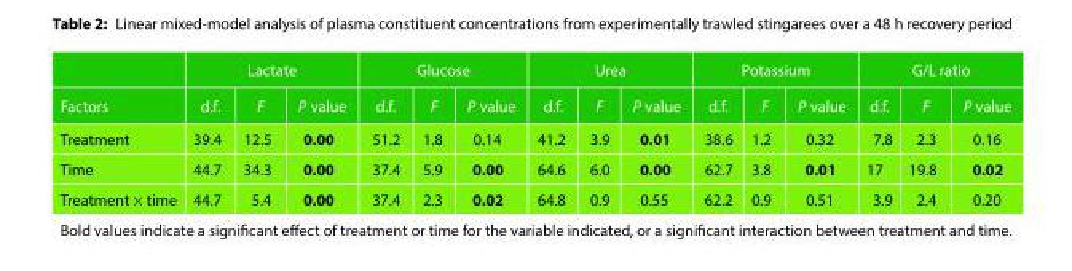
<table><thead><tr><td rowspan="2">Factors</td><td colspan="3">Lactate</td><td colspan="3">Glucose</td><td colspan="3">Urea</td><td colspan="3">Potassium</td><td colspan="3">G/L ratio</td></tr><tr><td>d.f.</td><td>F</td><td>P value</td><td>d.f.</td><td>F</td><td>P value</td><td>d.f.</td><td>F</td><td>P value</td><td>d.f.</td><td>F</td><td>P value</td><td>d.f.</td><td>F</td><td>P value</td></tr></thead><tbody><tr><td>Treatment</td><td>39.4</td><td>12.5</td><td>0.00</td><td>51.2</td><td>1.8</td><td>0.14</td><td>41.2</td><td>3.9</td><td>0.01</td><td>38.6</td><td>1.2</td><td>0.32</td><td>7.8</td><td>2.3</td><td>0.16</td></tr><tr><td>Time</td><td>44.7</td><td>34.3</td><td>0.00</td><td>37.4</td><td>5.9</td><td>0.00</td><td>64.6</td><td>6.0</td><td>0.00</td><td>62.7</td><td>3.8</td><td>0.01</td><td>17</td><td>19.8</td><td>0.02</td></tr><tr><td>Treatment × time</td><td>44.7</td><td>5.4</td><td>0.00</td><td>37.4</td><td>2.3</td><td>0.02</td><td>64.8</td><td>0.9</td><td>0.55</td><td>62.2</td><td>0.9</td><td>0.51</td><td>3.9</td><td>2.4</td><td>0.20</td></tr></tbody></table>